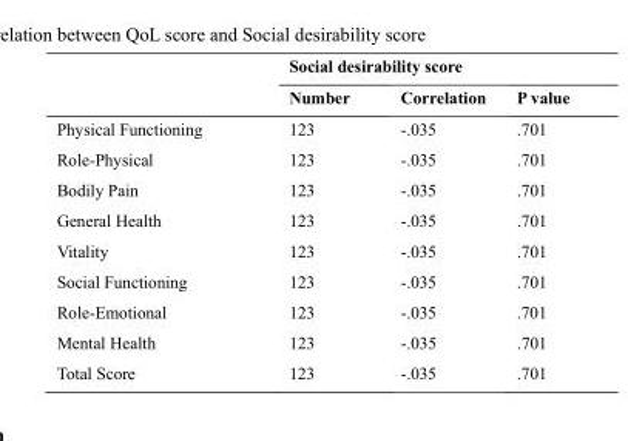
<table><thead><tr><td rowspan="2"></td><td colspan="3">Social desirability score</td></tr><tr><td>Number</td><td>Correlation</td><td>P value</td></tr></thead><tbody><tr><td>Physical Functioning</td><td>123</td><td>-.035</td><td>.701</td></tr><tr><td>Role-Physical</td><td>123</td><td>-.035</td><td>.701</td></tr><tr><td>Bodily Pain</td><td>123</td><td>-.035</td><td>.701</td></tr><tr><td>General Health</td><td>123</td><td>-.035</td><td>.701</td></tr><tr><td>Vitality</td><td>123</td><td>-.035</td><td>.701</td></tr><tr><td>Social Functioning</td><td>123</td><td>-.035</td><td>.701</td></tr><tr><td>Role-Emotional</td><td>123</td><td>-.035</td><td>.701</td></tr><tr><td>Mental Health</td><td>123</td><td>-.035</td><td>.701</td></tr><tr><td>Total Score</td><td>123</td><td>-.035</td><td>.701</td></tr></tbody></table>